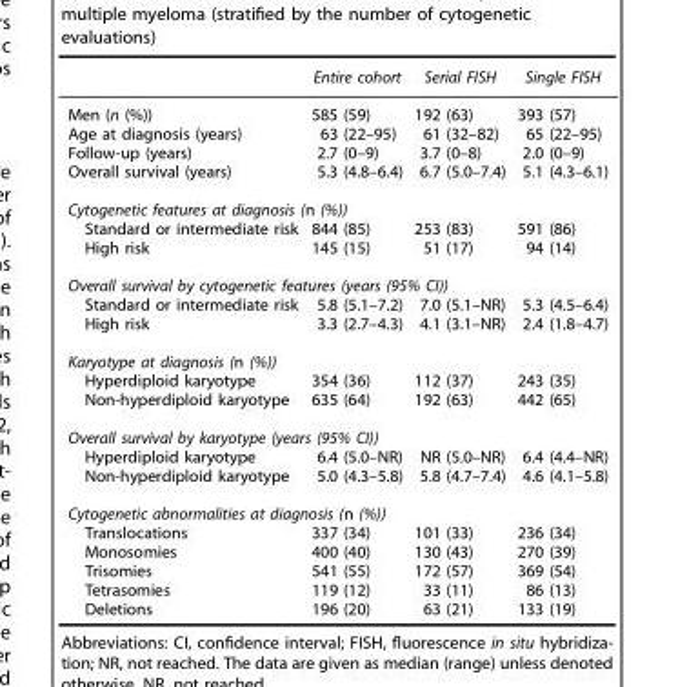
<table><thead><tr><td></td><td>Entire cohort</td><td>Serial FISH</td><td>Single FISH</td></tr></thead><tbody><tr><td>Men (n (%))</td><td>585 (59)</td><td>192 (63)</td><td>393 (57)</td></tr><tr><td>Age at diagnosis (years)</td><td>63 (22–95)</td><td>61 (32–82)</td><td>65 (22–95)</td></tr><tr><td>Follow-up (years)</td><td>2.7 (0–9)</td><td>3.7 (0–8)</td><td>2.0 (0–9)</td></tr><tr><td>Overall survival (years)</td><td>5.3 (4.8–6.4)</td><td>6.7 (5.0–7.4)</td><td>5.1 (4.3–6.1)</td></tr><tr><td colspan="4">Cytogenetic features at diagnosis (n (%))</td></tr><tr><td>Standard or intermediate risk</td><td>844 (85)</td><td>253 (83)</td><td>591 (86)</td></tr><tr><td>High risk</td><td>145 (15)</td><td>51 (17)</td><td>94 (14)</td></tr><tr><td colspan="4">Overall survival by cytogenetic features (years (95% CI))</td></tr><tr><td>Standard or intermediate risk</td><td>5.8 (5.1–7.2)</td><td>7.0 (5.1–NR)</td><td>5.3 (4.5–6.4)</td></tr><tr><td>High risk</td><td>3.3 (2.7–4.3)</td><td>4.1 (3.1–NR)</td><td>2.4 (1.8–4.7)</td></tr><tr><td colspan="4">Karyotype at diagnosis (n (%))</td></tr><tr><td>Hyperdiploid karyotype</td><td>354 (36)</td><td>112 (37)</td><td>243 (35)</td></tr><tr><td>Non-hyperdiploid karyotype</td><td>635 (64)</td><td>192 (63)</td><td>442 (65)</td></tr><tr><td colspan="4">Overall survival by karyotype (years (95% CI))</td></tr><tr><td>Hyperdiploid karyotype</td><td>6.4 (5.0–NR)</td><td>NR (5.0–NR)</td><td>6.4 (4.4–NR)</td></tr><tr><td>Non-hyperdiploid karyotype</td><td>5.0 (4.3–5.8)</td><td>5.8 (4.7–7.4)</td><td>4.6 (4.1–5.8)</td></tr><tr><td colspan="4">Cytogenetic abnormalities at diagnosis (n (%))</td></tr><tr><td>Translocations</td><td>337 (34)</td><td>101 (33)</td><td>236 (34)</td></tr><tr><td>Monosomies</td><td>400 (40)</td><td>130 (43)</td><td>270 (39)</td></tr><tr><td>Trisomies</td><td>541 (55)</td><td>172 (57)</td><td>369 (54)</td></tr><tr><td>Tetrasomies</td><td>119 (12)</td><td>33 (11)</td><td>86 (13)</td></tr><tr><td>Deletions</td><td>196 (20)</td><td>63 (21)</td><td>133 (19)</td></tr></tbody></table>